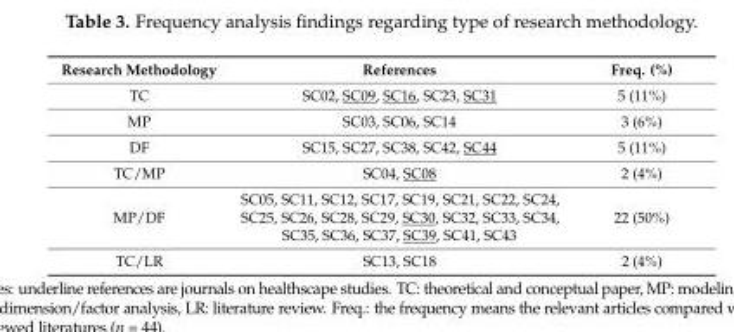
<table><thead><tr><td>Research Methodology</td><td>References</td><td>Freq. (%)</td></tr></thead><tbody><tr><td>TC</td><td>SC02, SC09, SC16, SC23, SC31</td><td>5 (11%)</td></tr><tr><td>MP</td><td>SC03, SC06, SC14</td><td>3 (6%)</td></tr><tr><td>DF</td><td>SC15, SC27, SC38, SC42, SC44</td><td>5 (11%)</td></tr><tr><td>TC/MP</td><td>SC04, SC08</td><td>2 (4%)</td></tr><tr><td>MP/DF</td><td>SC05, SC11, SC12, SC17, SC19, SC21, SC22, SC24, SC25, SC26, SC28, SC29, SC30, SC32, SC33, SC34, SC35, SC36, SC37, SC39, SC41, SC43</td><td>22 (50%)</td></tr><tr><td>TC/LR</td><td>SC13, SC18</td><td>2 (4%)</td></tr></tbody></table>